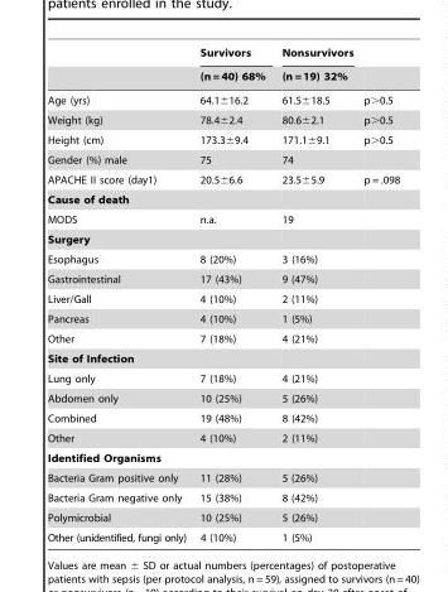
<table><thead><tr><td rowspan="2"></td><td rowspan="2">Survivors (n = 40) 68%</td><td rowspan="2">Nonsurvivors (n = 19) 32%</td><td rowspan="2"></td></tr><tr></tr></thead><tbody><tr><td>Age (yrs)</td><td>64.1±16.2</td><td>61.5±18.5</td><td>p&gt;0.5</td></tr><tr><td>Weight (kg)</td><td>78.4±2.4</td><td>80.6±2.1</td><td>p&gt;0.5</td></tr><tr><td>Height (cm)</td><td>173.3±9.4</td><td>171.1±9.1</td><td>p&gt;0.5</td></tr><tr><td>Gender (%) male</td><td>75</td><td>74</td><td></td></tr><tr><td>APACHE II score (day1)</td><td>20.5±6.6</td><td>23.5±5.9</td><td>p = .098</td></tr><tr><td colspan="4">Cause of death</td></tr><tr><td>MODS</td><td>n.a.</td><td>19</td><td></td></tr><tr><td colspan="4">Surgery</td></tr><tr><td>Esophagus</td><td>8 (20%)</td><td>3 (16%)</td><td></td></tr><tr><td>Gastrointestinal</td><td>17 (43%)</td><td>9 (47%)</td><td></td></tr><tr><td>Liver/Gall</td><td>4 (10%)</td><td>2 (11%)</td><td></td></tr><tr><td>Pancreas</td><td>4 (10%)</td><td>1 (5%)</td><td></td></tr><tr><td>Other</td><td>7 (18%)</td><td>4 (21%)</td><td></td></tr><tr><td colspan="4">Site of Infection</td></tr><tr><td>Lung only</td><td>7 (18%)</td><td>4 (21%)</td><td></td></tr><tr><td>Abdomen only</td><td>10 (25%)</td><td>5 (26%)</td><td></td></tr><tr><td>Combined</td><td>19 (48%)</td><td>8 (42%)</td><td></td></tr><tr><td>Other</td><td>4 (10%)</td><td>2 (11%)</td><td></td></tr><tr><td colspan="4">Identified Organisms</td></tr><tr><td>Bacteria Gram positive only</td><td>11 (28%)</td><td>5 (26%)</td><td></td></tr><tr><td>Bacteria Gram negative only</td><td>15 (38%)</td><td>8 (42%)</td><td></td></tr><tr><td>Polymicrobial</td><td>10 (25%)</td><td>5 (26%)</td><td></td></tr><tr><td>Other (unidentified, fungi only)</td><td>4 (10%)</td><td>1 (5%)</td><td></td></tr></tbody></table>